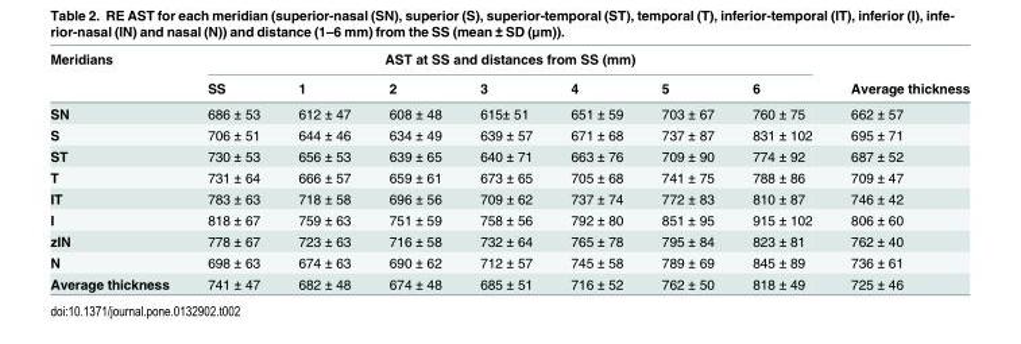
<table><thead><tr><td rowspan="2">Meridians</td><td colspan="7">AST at SS and distances from SS (mm)</td><td rowspan="2">Average thickness</td></tr><tr><td>SS</td><td>1</td><td>2</td><td>3</td><td>4</td><td>5</td><td>6</td></tr></thead><tbody><tr><td>SN</td><td>686 ± 53</td><td>612 ± 47</td><td>608 ± 48</td><td>615± 51</td><td>651 ± 59</td><td>703 ± 67</td><td>760 ± 75</td><td>662 ± 57</td></tr><tr><td>S</td><td>706 ± 51</td><td>644 ± 46</td><td>634 ± 49</td><td>639 ± 57</td><td>671 ± 68</td><td>737 ± 87</td><td>831 ± 102</td><td>695 ± 71</td></tr><tr><td>ST</td><td>730 ± 53</td><td>656 ± 53</td><td>639 ± 65</td><td>640 ± 71</td><td>663 ± 76</td><td>709 ± 90</td><td>774 ± 92</td><td>687 ± 52</td></tr><tr><td>T</td><td>731 ± 64</td><td>666 ± 57</td><td>659 ± 61</td><td>673 ± 65</td><td>705 ± 68</td><td>741 ± 75</td><td>788 ± 86</td><td>709 ± 47</td></tr><tr><td>IT</td><td>783 ± 63</td><td>718 ± 58</td><td>696 ± 56</td><td>709 ± 62</td><td>737 ± 74</td><td>772 ± 83</td><td>810 ± 87</td><td>746 ± 42</td></tr><tr><td>I</td><td>818 ± 67</td><td>759 ± 63</td><td>751 ± 59</td><td>758 ± 56</td><td>792 ± 80</td><td>851 ± 95</td><td>915 ± 102</td><td>806 ± 60</td></tr><tr><td>zIN</td><td>778 ± 67</td><td>723 ± 63</td><td>716 ± 58</td><td>732 ± 64</td><td>765 ± 78</td><td>795 ± 84</td><td>823 ± 81</td><td>762 ± 40</td></tr><tr><td>N</td><td>698 ± 63</td><td>674 ± 63</td><td>690 ± 62</td><td>712 ± 57</td><td>745 ± 58</td><td>789 ± 69</td><td>845 ± 89</td><td>736 ± 61</td></tr><tr><td>Average thickness</td><td>741 ± 47</td><td>682 ± 48</td><td>674 ± 48</td><td>685 ± 51</td><td>716 ± 52</td><td>762 ± 50</td><td>818 ± 49</td><td>725 ± 46</td></tr></tbody></table>